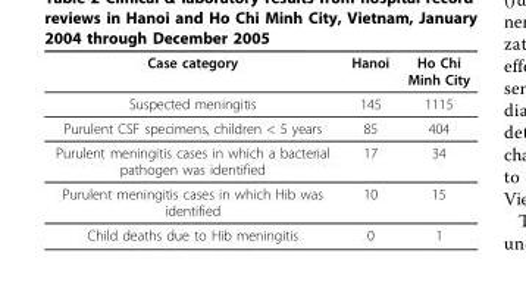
<table><thead><tr><td>Case category</td><td>Hanoi</td><td>Ho Chi Minh City</td></tr></thead><tbody><tr><td>Suspected meningitis</td><td>145</td><td>1115</td></tr><tr><td>Purulent CSF specimens, children &lt; 5 years</td><td>85</td><td>404</td></tr><tr><td>Purulent meningitis cases in which a bacterial pathogen was identified</td><td>17</td><td>34</td></tr><tr><td>Purulent meningitis cases in which Hib was identified</td><td>10</td><td>15</td></tr><tr><td>Child deaths due to Hib meningitis</td><td>0</td><td>1</td></tr></tbody></table>